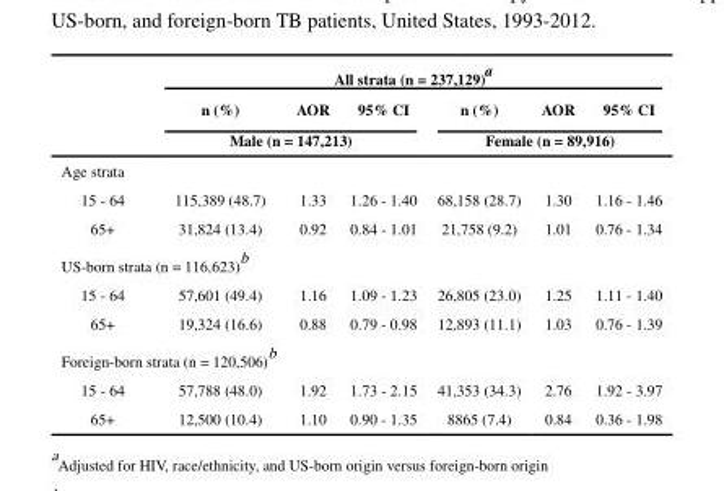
<table><thead><tr><td rowspan="3"></td><td colspan="6">All strata (n = 237,129)<sup>a</sup></td></tr><tr><td>n (%)</td><td>AOR</td><td>95% CI</td><td>n (%)</td><td>AOR</td><td>95% CI</td></tr><tr><td colspan="3">Male (n = 147,213)</td><td colspan="3">Female (n = 89,916)</td></tr></thead><tbody><tr><td colspan="7">Age strata</td></tr><tr><td>15 - 64</td><td>115,389 (48.7)</td><td>1.33</td><td>1.26 - 1.40</td><td>68,158 (28.7)</td><td>1.30</td><td>1.16 - 1.46</td></tr><tr><td>65+</td><td>31,824 (13.4)</td><td>0.92</td><td>0.84 - 1.01</td><td>21,758 (9.2)</td><td>1.01</td><td>0.76 - 1.34</td></tr><tr><td colspan="7">US-born strata (n = 116,623)<sup>b</sup></td></tr><tr><td>15 - 64</td><td>57,601 (49.4)</td><td>1.16</td><td>1.09 - 1.23</td><td>26,805 (23.0)</td><td>1.25</td><td>1.11 - 1.40</td></tr><tr><td>65+</td><td>19,324 (16.6)</td><td>0.88</td><td>0.79 - 0.98</td><td>12,893 (11.1)</td><td>1.03</td><td>0.76 - 1.39</td></tr><tr><td colspan="7">Foreign-born strata (n = 120,506)<sup>b</sup></td></tr><tr><td>15 - 64</td><td>57,788 (48.0)</td><td>1.92</td><td>1.73 - 2.15</td><td>41,353 (34.3)</td><td>2.76</td><td>1.92 - 3.97</td></tr><tr><td>65+</td><td>12,500 (10.4)</td><td>1.10</td><td>0.90 - 1.35</td><td>8865 (7.4)</td><td>0.84</td><td>0.36 - 1.98</td></tr></tbody></table>